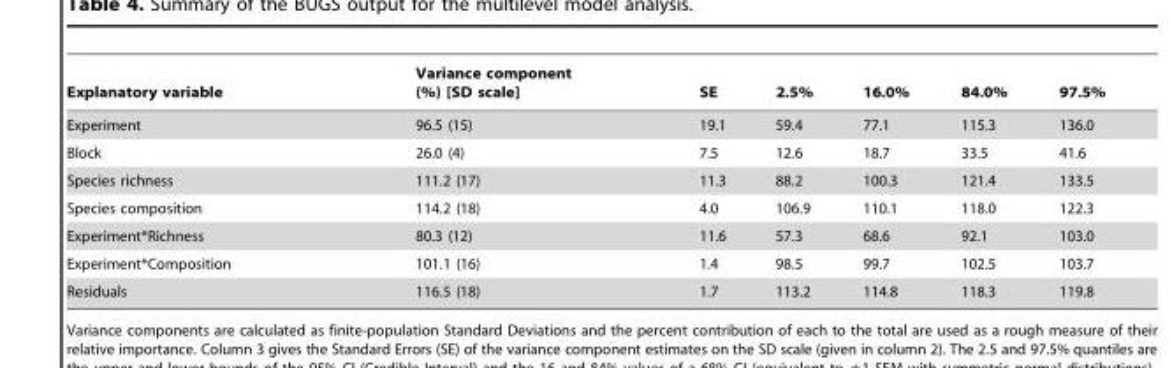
<table><thead><tr><td>Explanatory variable</td><td>Variance component (%) [SD scale]</td><td>SE</td><td>2.5%</td><td>16.0%</td><td>84.0%</td><td>97.5%</td></tr></thead><tbody><tr><td>Experiment</td><td>96.5 (15)</td><td>19.1</td><td>59.4</td><td>77.1</td><td>115.3</td><td>136.0</td></tr><tr><td>Block</td><td>26.0 (4)</td><td>7.5</td><td>12.6</td><td>18.7</td><td>33.5</td><td>41.6</td></tr><tr><td>Species richness</td><td>111.2 (17)</td><td>11.3</td><td>88.2</td><td>100.3</td><td>121.4</td><td>133.5</td></tr><tr><td>Species composition</td><td>114.2 (18)</td><td>4.0</td><td>106.9</td><td>110.1</td><td>118.0</td><td>122.3</td></tr><tr><td>Experiment*Richness</td><td>80.3 (12)</td><td>11.6</td><td>57.3</td><td>68.6</td><td>92.1</td><td>103.0</td></tr><tr><td>Experiment*Composition</td><td>101.1 (16)</td><td>1.4</td><td>98.5</td><td>99.7</td><td>102.5</td><td>103.7</td></tr><tr><td>Residuals</td><td>116.5 (18)</td><td>1.7</td><td>113.2</td><td>114.8</td><td>118.3</td><td>119.8</td></tr></tbody></table>